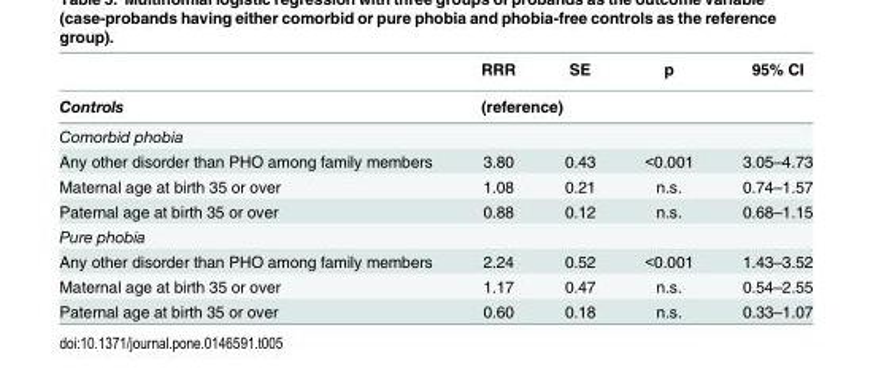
<table><thead><tr><td rowspan="2">Controls</td><td>RRR</td><td>SE</td><td>p</td><td>95% CI</td></tr><tr><td colspan="4">(reference)</td></tr></thead><tbody><tr><td colspan="5">Comorbid phobia</td></tr><tr><td>Any other disorder than PHO among family members</td><td>3.80</td><td>0.43</td><td>&lt;0.001</td><td>3.05–4.73</td></tr><tr><td>Maternal age at birth 35 or over</td><td>1.08</td><td>0.21</td><td>n.s.</td><td>0.74–1.57</td></tr><tr><td>Paternal age at birth 35 or over</td><td>0.88</td><td>0.12</td><td>n.s.</td><td>0.68–1.15</td></tr><tr><td colspan="5">Pure phobia</td></tr><tr><td>Any other disorder than PHO among family members</td><td>2.24</td><td>0.52</td><td>&lt;0.001</td><td>1.43–3.52</td></tr><tr><td>Maternal age at birth 35 or over</td><td>1.17</td><td>0.47</td><td>n.s.</td><td>0.54–2.55</td></tr><tr><td>Paternal age at birth 35 or over</td><td>0.60</td><td>0.18</td><td>n.s.</td><td>0.33–1.07</td></tr></tbody></table>